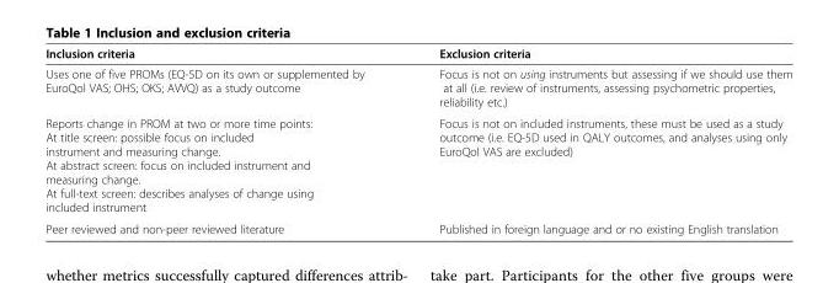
<table><thead><tr><td>Inclusion criteria</td><td>Exclusion criteria</td></tr></thead><tbody><tr><td>Uses one of five PROMs (EQ-5D on its own or supplemented by EuroQol VAS; OHS; OKS; AVVQ) as a study outcome</td><td>Focus is not on using instruments but assessing if we should use them at all (i.e. review of instruments, assessing psychometric properties, reliability etc.)</td></tr><tr><td>Reports change in PROM at two or more time points: At title screen: possible focus on included instrument and measuring change. At abstract screen: focus on included instrument and measuring change. At full-text screen: describes analyses of change using included instrument</td><td>Focus is not on included instruments, these must be used as a study outcome (i.e. EQ-5D used in QALY outcomes, and analyses using only EuroQol VAS are excluded)</td></tr><tr><td>Peer reviewed and non-peer reviewed literature</td><td>Published in foreign language and or no existing English translation</td></tr></tbody></table>